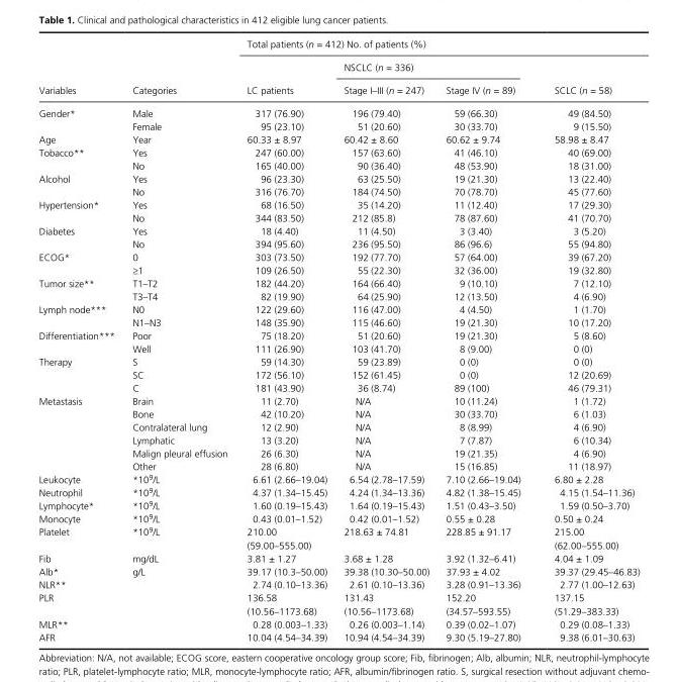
<table><thead><tr><td rowspan="3">Variables</td><td rowspan="3">Categories</td><td colspan="4">Total patients (n = 412) No. of patients (%)</td></tr><tr><td rowspan="2">LC patients</td><td colspan="2">NSCLC (n = 336)</td><td rowspan="2">SCLC (n = 58)</td></tr><tr><td>Stage I–III (n = 247)</td><td>Stage IV (n = 89)</td></tr></thead><tbody><tr><td rowspan="2">Gender*</td><td>Male</td><td>317 (76.90)</td><td>196 (79.40)</td><td>59 (66.30)</td><td>49 (84.50)</td></tr><tr><td>Female</td><td>95 (23.10)</td><td>51 (20.60)</td><td>30 (33.70)</td><td>9 (15.50)</td></tr><tr><td>Age</td><td>Year</td><td>60.33 ± 8.97</td><td>60.42 ± 8.60</td><td>60.62 ± 9.74</td><td>58.98 ± 8.47</td></tr><tr><td rowspan="2">Tobacco**</td><td>Yes</td><td>247 (60.00)</td><td>157 (63.60)</td><td>41 (46.10)</td><td>40 (69.00)</td></tr><tr><td>No</td><td>165 (40.00)</td><td>90 (36.40)</td><td>48 (53.90)</td><td>18 (31.00)</td></tr><tr><td rowspan="2">Alcohol</td><td>Yes</td><td>96 (23.30)</td><td>63 (25.50)</td><td>19 (21.30)</td><td>13 (22.40)</td></tr><tr><td>No</td><td>316 (76.70)</td><td>184 (74.50)</td><td>70 (78.70)</td><td>45 (77.60)</td></tr><tr><td rowspan="2">Hypertension*</td><td>Yes</td><td>68 (16.50)</td><td>35 (14.20)</td><td>11 (12.40)</td><td>17 (29.30)</td></tr><tr><td>No</td><td>344 (83.50)</td><td>212 (85.8)</td><td>78 (87.60)</td><td>41 (70.70)</td></tr><tr><td rowspan="2">Diabetes</td><td>Yes</td><td>18 (4.40)</td><td>11 (4.50)</td><td>3 (3.40)</td><td>3 (5.20)</td></tr><tr><td>No</td><td>394 (95.60)</td><td>236 (95.50)</td><td>86 (96.6)</td><td>55 (94.80)</td></tr><tr><td rowspan="2">ECOG*</td><td>0</td><td>303 (73.50)</td><td>192 (77.70)</td><td>57 (64.00)</td><td>39 (67.20)</td></tr><tr><td>≥1</td><td>109 (26.50)</td><td>55 (22.30)</td><td>32 (36.00)</td><td>19 (32.80)</td></tr><tr><td rowspan="2">Tumor size**</td><td>T1–T2</td><td>182 (44.20)</td><td>164 (66.40)</td><td>9 (10.10)</td><td>7 (12.10)</td></tr><tr><td>T3–T4</td><td>82 (19.90)</td><td>64 (25.90)</td><td>12 (13.50)</td><td>4 (6.90)</td></tr><tr><td rowspan="2">Lymph node***</td><td>N0</td><td>122 (29.60)</td><td>116 (47.00)</td><td>4 (4.50)</td><td>1 (1.70)</td></tr><tr><td>N1–N3</td><td>148 (35.90)</td><td>115 (46.60)</td><td>19 (21.30)</td><td>10 (17.20)</td></tr><tr><td rowspan="2">Differentiation***</td><td>Poor</td><td>75 (18.20)</td><td>51 (20.60)</td><td>19 (21.30)</td><td>5 (8.60)</td></tr><tr><td>Well</td><td>111 (26.90)</td><td>103 (41.70)</td><td>8 (9.00)</td><td>0 (0)</td></tr><tr><td rowspan="3">Therapy</td><td>S</td><td>59 (14.30)</td><td>59 (23.89)</td><td>0 (0)</td><td>0 (0)</td></tr><tr><td>SC</td><td>172 (56.10)</td><td>152 (61.45)</td><td>0 (0)</td><td>12 (20.69)</td></tr><tr><td>C</td><td>181 (43.90)</td><td>36 (8.74)</td><td>89 (100)</td><td>46 (79.31)</td></tr><tr><td rowspan="6">Metastasis</td><td>Brain</td><td>11 (2.70)</td><td>N/A</td><td>10 (11.24)</td><td>1 (1.72)</td></tr><tr><td>Bone</td><td>42 (10.20)</td><td>N/A</td><td>30 (33.70)</td><td>6 (1.03)</td></tr><tr><td>Contralateral lung</td><td>12 (2.90)</td><td>N/A</td><td>8 (8.99)</td><td>4 (6.90)</td></tr><tr><td>Lymphatic</td><td>13 (3.20)</td><td>N/A</td><td>7 (7.87)</td><td>6 (10.34)</td></tr><tr><td>Malign pleural effusion</td><td>26 (6.30)</td><td>N/A</td><td>19 (21.35)</td><td>4 (6.90)</td></tr><tr><td>Other</td><td>28 (6.80)</td><td>N/A</td><td>15 (16.85)</td><td>11 (18.97)</td></tr><tr><td>Leukocyte</td><td>*10<sup>9</sup>/L</td><td>6.61 (2.66–19.04)</td><td>6.54 (2.78–17.59)</td><td>7.10 (2.66–19.04)</td><td>6.80 ± 2.28</td></tr><tr><td>Neutrophil</td><td>*10<sup>9</sup>/L</td><td>4.37 (1.34–15.45)</td><td>4.24 (1.34–13.36)</td><td>4.82 (1.38–15.45)</td><td>4.15 (1.54–11.36)</td></tr><tr><td>Lymphocyte*</td><td>*10<sup>9</sup>/L</td><td>1.60 (0.19–15.43)</td><td>1.64 (0.19–15.43)</td><td>1.51 (0.43–3.50)</td><td>1.59 (0.50–3.70)</td></tr><tr><td>Monocyte</td><td>*10<sup>9</sup>/L</td><td>0.43 (0.01–1.52)</td><td>0.42 (0.01–1.52)</td><td>0.55 ± 0.28</td><td>0.50 ± 0.24</td></tr><tr><td>Platelet</td><td>*10<sup>9</sup>/L</td><td>210.00 (59.00–555.00)</td><td>218.63 ± 74.81</td><td>228.85 ± 91.17</td><td>215.00 (62.00–555.00)</td></tr><tr><td>Fib</td><td>mg/dL</td><td>3.81 ± 1.27</td><td>3.68 ± 1.28</td><td>3.92 (1.32–6.41)</td><td>4.04 ± 1.09</td></tr><tr><td>Alb*</td><td>g/L</td><td>39.17 (10.3–50.00)</td><td>39.38 (10.30–50.00)</td><td>37.93 ± 4.02</td><td>39.37 (29.45–46.83)</td></tr><tr><td>NLR**</td><td></td><td>2.74 (0.10–13.36)</td><td>2.61 (0.10–13.36)</td><td>3.28 (0.91–13.36)</td><td>2.77 (1.00–12.63)</td></tr><tr><td>PLR</td><td></td><td>136.58 (10.56–1173.68)</td><td>131.43 (10.56–1173.68)</td><td>152.20 (34.57–593.55)</td><td>137.15 (51.29–383.33)</td></tr><tr><td>MLR**</td><td></td><td>0.28 (0.003–1.33)</td><td>0.26 (0.003–1.14)</td><td>0.39 (0.02–1.07)</td><td>0.29 (0.08–1.33)</td></tr><tr><td>AFR</td><td></td><td>10.04 (4.54–34.39)</td><td>10.94 (4.54–34.39)</td><td>9.30 (5.19–27.80)</td><td>9.38 (6.01–30.63)</td></tr></tbody></table>